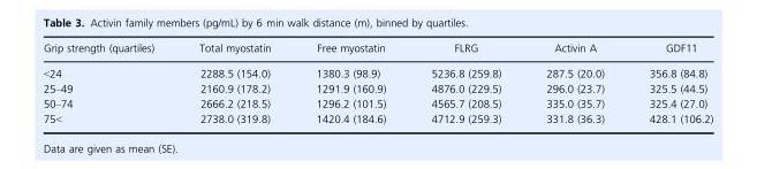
<table><thead><tr><td>Grip strength (quartiles)</td><td>Total myostatin</td><td>Free myostatin</td><td>FLRG</td><td>Activin A</td><td>GDF11</td></tr></thead><tbody><tr><td>&lt;24</td><td>2288.5 (154.0)</td><td>1380.3 (98.9)</td><td>5236.8 (259.8)</td><td>287.5 (20.0)</td><td>356.8 (84.8)</td></tr><tr><td>25–49</td><td>2160.9 (178.2)</td><td>1291.9 (160.9)</td><td>4876.0 (229.5)</td><td>296.0 (23.7)</td><td>325.5 (44.5)</td></tr><tr><td>50–74</td><td>2666.2 (218.5)</td><td>1296.2 (101.5)</td><td>4565.7 (208.5)</td><td>335.0 (35.7)</td><td>325.4 (27.0)</td></tr><tr><td>75&lt;</td><td>2738.0 (319.8)</td><td>1420.4 (184.6)</td><td>4712.9 (259.3)</td><td>331.8 (36.3)</td><td>428.1 (106.2)</td></tr></tbody></table>